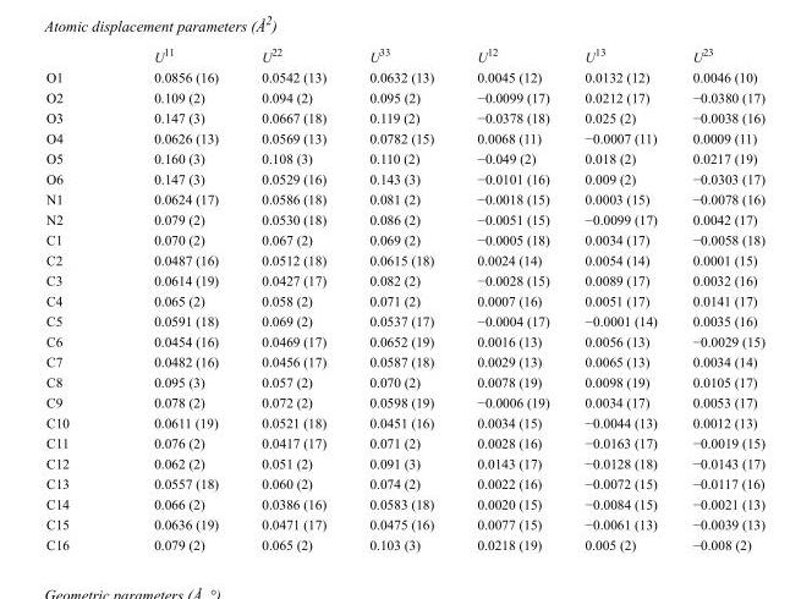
<table><thead><tr><td></td><td>U<sup>11</sup></td><td>U<sup>22</sup></td><td>U<sup>33</sup></td><td>U<sup>12</sup></td><td>U<sup>13</sup></td><td>U<sup>23</sup></td></tr></thead><tbody><tr><td>O1</td><td>0.0856 (16)</td><td>0.0542 (13)</td><td>0.0632 (13)</td><td>0.0045 (12)</td><td>0.0132 (12)</td><td>0.0046 (10)</td></tr><tr><td>O2</td><td>0.109 (2)</td><td>0.094 (2)</td><td>0.095 (2)</td><td>−0.0099 (17)</td><td>0.0212 (17)</td><td>−0.0380 (17)</td></tr><tr><td>O3</td><td>0.147 (3)</td><td>0.0667 (18)</td><td>0.119 (2)</td><td>−0.0378 (18)</td><td>0.025 (2)</td><td>−0.0038 (16)</td></tr><tr><td>O4</td><td>0.0626 (13)</td><td>0.0569 (13)</td><td>0.0782 (15)</td><td>0.0068 (11)</td><td>−0.0007 (11)</td><td>0.0009 (11)</td></tr><tr><td>O5</td><td>0.160 (3)</td><td>0.108 (3)</td><td>0.110 (2)</td><td>−0.049 (2)</td><td>0.018 (2)</td><td>0.0217 (19)</td></tr><tr><td>O6</td><td>0.147 (3)</td><td>0.0529 (16)</td><td>0.143 (3)</td><td>−0.0101 (16)</td><td>0.009 (2)</td><td>−0.0303 (17)</td></tr><tr><td>N1</td><td>0.0624 (17)</td><td>0.0586 (18)</td><td>0.081 (2)</td><td>−0.0018 (15)</td><td>0.0003 (15)</td><td>−0.0078 (16)</td></tr><tr><td>N2</td><td>0.079 (2)</td><td>0.0530 (18)</td><td>0.086 (2)</td><td>−0.0051 (15)</td><td>−0.0099 (17)</td><td>0.0042 (17)</td></tr><tr><td>C1</td><td>0.070 (2)</td><td>0.067 (2)</td><td>0.069 (2)</td><td>−0.0005 (18)</td><td>0.0034 (17)</td><td>−0.0058 (18)</td></tr><tr><td>C2</td><td>0.0487 (16)</td><td>0.0512 (18)</td><td>0.0615 (18)</td><td>0.0024 (14)</td><td>0.0054 (14)</td><td>0.0001 (15)</td></tr><tr><td>C3</td><td>0.0614 (19)</td><td>0.0427 (17)</td><td>0.082 (2)</td><td>−0.0028 (15)</td><td>0.0089 (17)</td><td>0.0032 (16)</td></tr><tr><td>C4</td><td>0.065 (2)</td><td>0.058 (2)</td><td>0.071 (2)</td><td>0.0007 (16)</td><td>0.0051 (17)</td><td>0.0141 (17)</td></tr><tr><td>C5</td><td>0.0591 (18)</td><td>0.069 (2)</td><td>0.0537 (17)</td><td>−0.0004 (17)</td><td>−0.0001 (14)</td><td>0.0035 (16)</td></tr><tr><td>C6</td><td>0.0454 (16)</td><td>0.0469 (17)</td><td>0.0652 (19)</td><td>0.0016 (13)</td><td>0.0056 (13)</td><td>−0.0029 (15)</td></tr><tr><td>C7</td><td>0.0482 (16)</td><td>0.0456 (17)</td><td>0.0587 (18)</td><td>0.0029 (13)</td><td>0.0065 (13)</td><td>0.0034 (14)</td></tr><tr><td>C8</td><td>0.095 (3)</td><td>0.057 (2)</td><td>0.070 (2)</td><td>0.0078 (19)</td><td>0.0098 (19)</td><td>0.0105 (17)</td></tr><tr><td>C9</td><td>0.078 (2)</td><td>0.072 (2)</td><td>0.0598 (19)</td><td>−0.0006 (19)</td><td>0.0034 (17)</td><td>0.0053 (17)</td></tr><tr><td>C10</td><td>0.0611 (19)</td><td>0.0521 (18)</td><td>0.0451 (16)</td><td>0.0034 (15)</td><td>−0.0044 (13)</td><td>0.0012 (13)</td></tr><tr><td>C11</td><td>0.076 (2)</td><td>0.0417 (17)</td><td>0.071 (2)</td><td>0.0028 (16)</td><td>−0.0163 (17)</td><td>−0.0019 (15)</td></tr><tr><td>C12</td><td>0.062 (2)</td><td>0.051 (2)</td><td>0.091 (3)</td><td>0.0143 (17)</td><td>−0.0128 (18)</td><td>−0.0143 (17)</td></tr><tr><td>C13</td><td>0.0557 (18)</td><td>0.060 (2)</td><td>0.074 (2)</td><td>0.0022 (16)</td><td>−0.0072 (15)</td><td>−0.0117 (16)</td></tr><tr><td>C14</td><td>0.066 (2)</td><td>0.0386 (16)</td><td>0.0583 (18)</td><td>0.0020 (15)</td><td>−0.0084 (15)</td><td>−0.0021 (13)</td></tr><tr><td>C15</td><td>0.0636 (19)</td><td>0.0471 (17)</td><td>0.0475 (16)</td><td>0.0077 (15)</td><td>−0.0061 (13)</td><td>−0.0039 (13)</td></tr><tr><td>C16</td><td>0.079 (2)</td><td>0.065 (2)</td><td>0.103 (3)</td><td>0.0218 (19)</td><td>0.005 (2)</td><td>−0.008 (2)</td></tr></tbody></table>